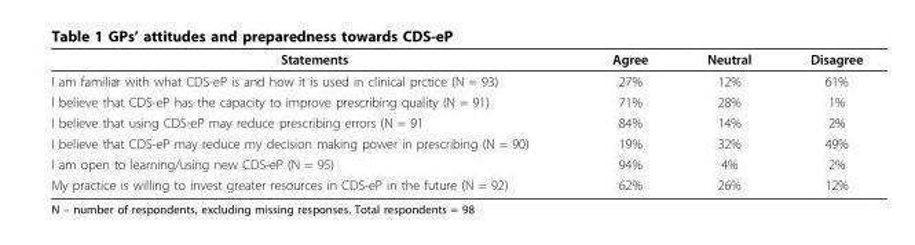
<table><thead><tr><td>Statements</td><td>Agree</td><td>Neutral</td><td>Disagree</td></tr></thead><tbody><tr><td>I am familiar with what CDS-eP is and how it is used in clinical prctice (N = 93)</td><td>27%</td><td>12%</td><td>61%</td></tr><tr><td>I believe that CDS-eP has the capacity to improve prescribing quality (N = 91)</td><td>71%</td><td>28%</td><td>1%</td></tr><tr><td>I believe that using CDS-eP may reduce prescribing errors (N = 91</td><td>84%</td><td>14%</td><td>2%</td></tr><tr><td>I believe that CDS-eP may reduce my decision making power in prescribing (N = 90)</td><td>19%</td><td>32%</td><td>49%</td></tr><tr><td>I am open to learning/using new CDS-eP (N = 95)</td><td>94%</td><td>4%</td><td>2%</td></tr><tr><td>My practice is willing to invest greater resources in CDS-eP in the future (N = 92)</td><td>62%</td><td>26%</td><td>12%</td></tr></tbody></table>